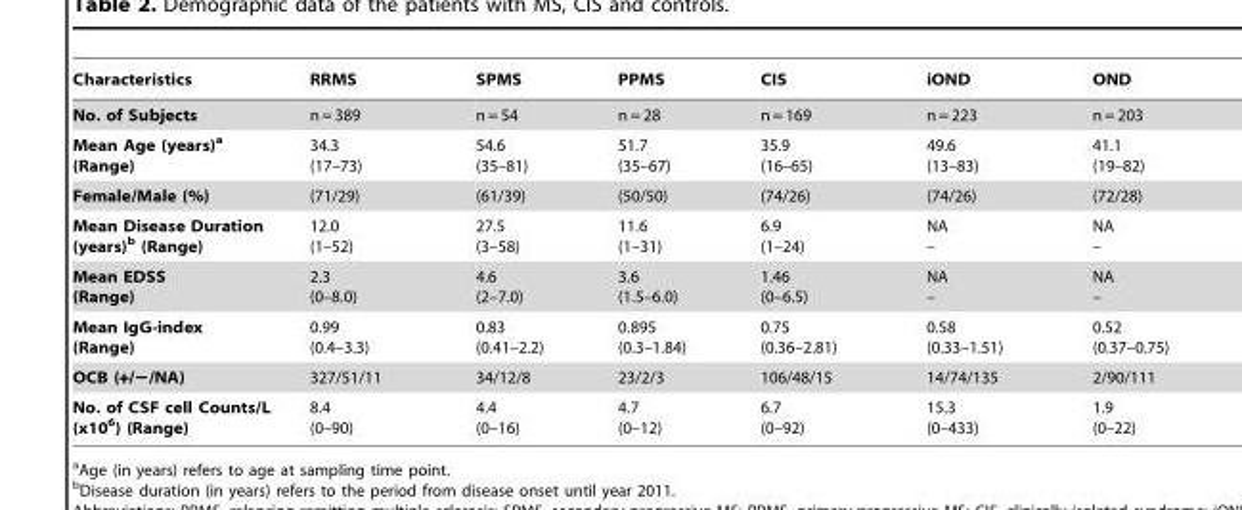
<table><thead><tr><td>Characteristics</td><td>RRMS</td><td>SPMS</td><td>PPMS</td><td>CIS</td><td>iOND</td><td>OND</td></tr></thead><tbody><tr><td>No. of Subjects</td><td>n = 389</td><td>n = 54</td><td>n = 28</td><td>n = 169</td><td>n = 223</td><td>n = 203</td></tr><tr><td>Mean Age (years)a (Range)</td><td>34.3 (17–73)</td><td>54.6 (35–81)</td><td>51.7 (35–67)</td><td>35.9 (16–65)</td><td>49.6 (13–83)</td><td>41.1 (19–82)</td></tr><tr><td>Female/Male (%)</td><td>(71/29)</td><td>(61/39)</td><td>(50/50)</td><td>(74/26)</td><td>(74/26)</td><td>(72/28)</td></tr><tr><td>Mean Disease Duration (years)b (Range)</td><td>12.0 (1–52)</td><td>27.5 (3–58)</td><td>11.6 (1–31)</td><td>6.9 (1–24)</td><td>NA –</td><td>NA –</td></tr><tr><td>Mean EDSS (Range)</td><td>2.3 (0–8.0)</td><td>4.6 (2–7.0)</td><td>3.6 (1.5–6.0)</td><td>1.46 (0–6.5)</td><td>NA –</td><td>NA –</td></tr><tr><td>Mean IgG-index (Range)</td><td>0.99 (0.4–3.3)</td><td>0.83 (0.41–2.2)</td><td>0.895 (0.3–1.84)</td><td>0.75 (0.36–2.81)</td><td>0.58 (0.33–1.51)</td><td>0.52 (0.37–0.75)</td></tr><tr><td>OCB (+/−/NA)</td><td>327/51/11</td><td>34/12/8</td><td>23/2/3</td><td>106/48/15</td><td>14/74/135</td><td>2/90/111</td></tr><tr><td>No. of CSF cell Counts/L (x10<sup>6</sup>) (Range)</td><td>8.4 (0–90)</td><td>4.4 (0–16)</td><td>4.7 (0–12)</td><td>6.7 (0–92)</td><td>15.3 (0–433)</td><td>1.9 (0–22)</td></tr></tbody></table>